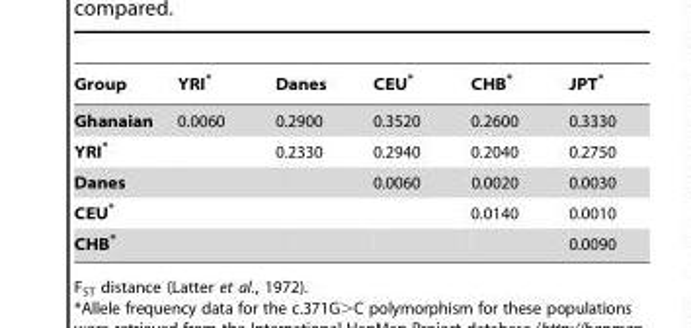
<table><thead><tr><td>Group</td><td>YRI*</td><td>Danes</td><td>CEU*</td><td>CHB*</td><td>JPT*</td></tr></thead><tbody><tr><td>Ghanaian</td><td>0.0060</td><td>0.2900</td><td>0.3520</td><td>0.2600</td><td>0.3330</td></tr><tr><td>YRI*</td><td></td><td>0.2330</td><td>0.2940</td><td>0.2040</td><td>0.2750</td></tr><tr><td>Danes</td><td></td><td></td><td>0.0060</td><td>0.0020</td><td>0.0030</td></tr><tr><td>CEU*</td><td></td><td></td><td></td><td>0.0140</td><td>0.0010</td></tr><tr><td>CHB*</td><td></td><td></td><td></td><td></td><td>0.0090</td></tr></tbody></table>